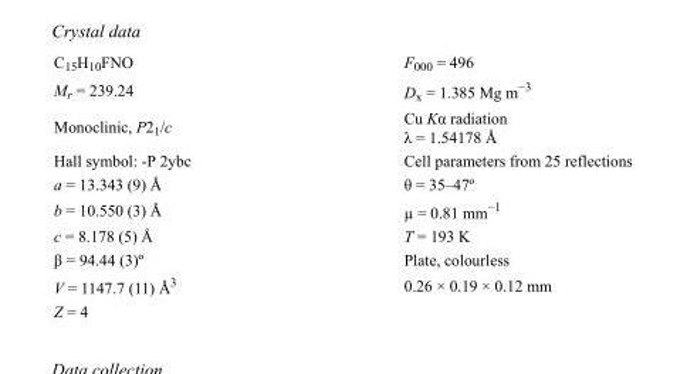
<table><tbody><tr><td>C<sub>15</sub>H<sub>10</sub>FNO</td><td>F000 = 496</td></tr><tr><td>M<sub>r</sub> = 239.24</td><td>D<sub>x</sub> = 1.385 Mg m<sup>−3</sup></td></tr><tr><td>Monoclinic, P2<sub>1</sub>/c</td><td>Cu Kα radiation λ = 1.54178 Å</td></tr><tr><td>Hall symbol: -P 2ybc</td><td>Cell parameters from 25 reflections</td></tr><tr><td>a = 13.343 (9) Å</td><td>θ = 35–47º</td></tr><tr><td>b = 10.550 (3) Å</td><td>µ = 0.81 mm<sup>−1</sup></td></tr><tr><td>c = 8.178 (5) Å</td><td>T = 193 K</td></tr><tr><td>β = 94.44 (3)º</td><td>Plate, colourless</td></tr><tr><td>V = 1147.7 (11) Å<sup>3</sup></td><td>0.26 × 0.19 × 0.12 mm</td></tr><tr><td>Z = 4</td><td></td></tr></tbody></table>